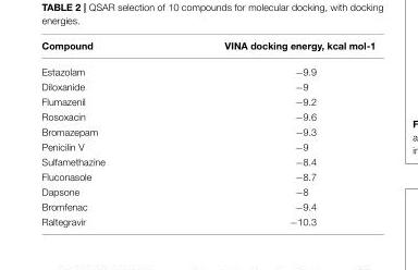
<table><thead><tr><td>Compound</td><td>VINA docking energy, kcal mol-1</td></tr></thead><tbody><tr><td>Estazolam</td><td>−9.9</td></tr><tr><td>Diloxanide</td><td>−9</td></tr><tr><td>Flumazenil</td><td>−9.2</td></tr><tr><td>Rosoxacin</td><td>−9.6</td></tr><tr><td>Bromazepam</td><td>−9.3</td></tr><tr><td>Penicilin V</td><td>−9</td></tr><tr><td>Sulfamethazine</td><td>−8.4</td></tr><tr><td>Fluconasole</td><td>−8.7</td></tr><tr><td>Dapsone</td><td>−8</td></tr><tr><td>Bromfenac</td><td>−9.4</td></tr><tr><td>Raltegravir</td><td>−10.3</td></tr></tbody></table>